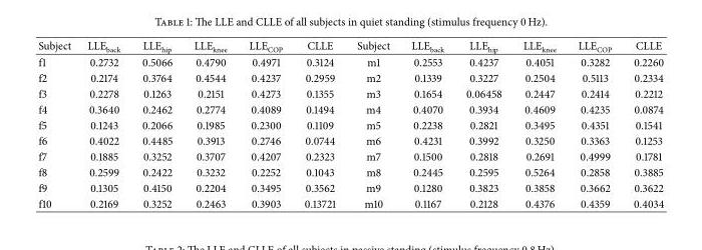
<table><thead><tr><td>Subject</td><td>LLE<sub>back</sub></td><td>LLE<sub>hip</sub></td><td>LLE<sub>knee</sub></td><td>LLE<sub>COP</sub></td><td>CLLE</td><td>Subject</td><td>LLE<sub>back</sub></td><td>LLE<sub>hip</sub></td><td>LLE<sub>knee</sub></td><td>LLE<sub>COP</sub></td><td>CLLE</td></tr></thead><tbody><tr><td>f1</td><td>0.2732</td><td>0.5066</td><td>0.4790</td><td>0.4971</td><td>0.3124</td><td>m1</td><td>0.2553</td><td>0.4237</td><td>0.4051</td><td>0.3282</td><td>0.2260</td></tr><tr><td>f2</td><td>0.2174</td><td>0.3764</td><td>0.4544</td><td>0.4237</td><td>0.2959</td><td>m2</td><td>0.1339</td><td>0.3227</td><td>0.2504</td><td>0.5113</td><td>0.2334</td></tr><tr><td>f3</td><td>0.2278</td><td>0.1263</td><td>0.2151</td><td>0.4273</td><td>0.1355</td><td>m3</td><td>0.1654</td><td>0.06458</td><td>0.2447</td><td>0.2414</td><td>0.2212</td></tr><tr><td>f4</td><td>0.3640</td><td>0.2462</td><td>0.2774</td><td>0.4089</td><td>0.1494</td><td>m4</td><td>0.4070</td><td>0.3934</td><td>0.4609</td><td>0.4235</td><td>0.0874</td></tr><tr><td>f5</td><td>0.1243</td><td>0.2066</td><td>0.1985</td><td>0.2300</td><td>0.1109</td><td>m5</td><td>0.2238</td><td>0.2821</td><td>0.3495</td><td>0.4351</td><td>0.1541</td></tr><tr><td>f6</td><td>0.4022</td><td>0.4485</td><td>0.3913</td><td>0.2746</td><td>0.0744</td><td>m6</td><td>0.4231</td><td>0.3992</td><td>0.3250</td><td>0.3363</td><td>0.1253</td></tr><tr><td>f7</td><td>0.1885</td><td>0.3252</td><td>0.3707</td><td>0.4207</td><td>0.2323</td><td>m7</td><td>0.1500</td><td>0.2818</td><td>0.2691</td><td>0.4999</td><td>0.1781</td></tr><tr><td>f8</td><td>0.2599</td><td>0.2422</td><td>0.3232</td><td>0.2252</td><td>0.1043</td><td>m8</td><td>0.2445</td><td>0.2595</td><td>0.5264</td><td>0.2858</td><td>0.3885</td></tr><tr><td>f9</td><td>0.1305</td><td>0.4150</td><td>0.2204</td><td>0.3495</td><td>0.3562</td><td>m9</td><td>0.1280</td><td>0.3823</td><td>0.3858</td><td>0.3662</td><td>0.3622</td></tr><tr><td>f10</td><td>0.2169</td><td>0.3252</td><td>0.2463</td><td>0.3903</td><td>0.13721</td><td>m10</td><td>0.1167</td><td>0.2128</td><td>0.4376</td><td>0.4359</td><td>0.4034</td></tr></tbody></table>